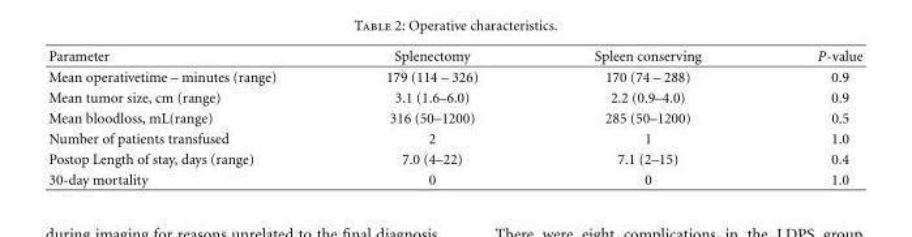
<table><thead><tr><td>Parameter</td><td>Splenectomy</td><td>Spleen conserving</td><td>P-value</td></tr></thead><tbody><tr><td>Mean operativetime – minutes (range)</td><td>179 (114 – 326)</td><td>170 (74 – 288)</td><td>0.9</td></tr><tr><td>Mean tumor size, cm (range)</td><td>3.1 (1.6–6.0)</td><td>2.2 (0.9–4.0)</td><td>0.9</td></tr><tr><td>Mean bloodloss, mL(range)</td><td>316 (50–1200)</td><td>285 (50–1200)</td><td>0.5</td></tr><tr><td>Number of patients transfused</td><td>2</td><td>1</td><td>1.0</td></tr><tr><td>Postop Length of stay, days (range)</td><td>7.0 (4–22)</td><td>7.1 (2–15)</td><td>0.4</td></tr><tr><td>30-day mortality</td><td>0</td><td>0</td><td>1.0</td></tr></tbody></table>